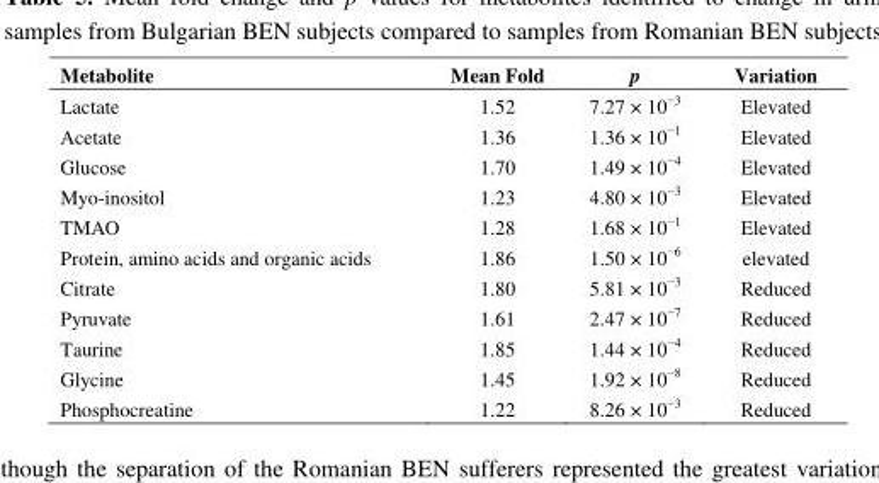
<table><thead><tr><td>Metabolite</td><td>Mean Fold</td><td>p</td><td>Variation</td></tr></thead><tbody><tr><td>Lactate</td><td>1.52</td><td>7.27 × 10<sup>−3</sup></td><td>Elevated</td></tr><tr><td>Acetate</td><td>1.36</td><td>1.36 × 10<sup>−1</sup></td><td>Elevated</td></tr><tr><td>Glucose</td><td>1.70</td><td>1.49 × 10<sup>−4</sup></td><td>Elevated</td></tr><tr><td>Myo-inositol</td><td>1.23</td><td>4.80 × 10<sup>−3</sup></td><td>Elevated</td></tr><tr><td>TMAO</td><td>1.28</td><td>1.68 × 10<sup>−1</sup></td><td>Elevated</td></tr><tr><td>Protein, amino acids and organic acids</td><td>1.86</td><td>1.50 × 10<sup>−6</sup></td><td>elevated</td></tr><tr><td>Citrate</td><td>1.80</td><td>5.81 × 10<sup>−3</sup></td><td>Reduced</td></tr><tr><td>Pyruvate</td><td>1.61</td><td>2.47 × 10<sup>−7</sup></td><td>Reduced</td></tr><tr><td>Taurine</td><td>1.85</td><td>1.44 × 10<sup>−4</sup></td><td>Reduced</td></tr><tr><td>Glycine</td><td>1.45</td><td>1.92 × 10<sup>−8</sup></td><td>Reduced</td></tr><tr><td>Phosphocreatine</td><td>1.22</td><td>8.26 × 10<sup>−3</sup></td><td>Reduced</td></tr></tbody></table>